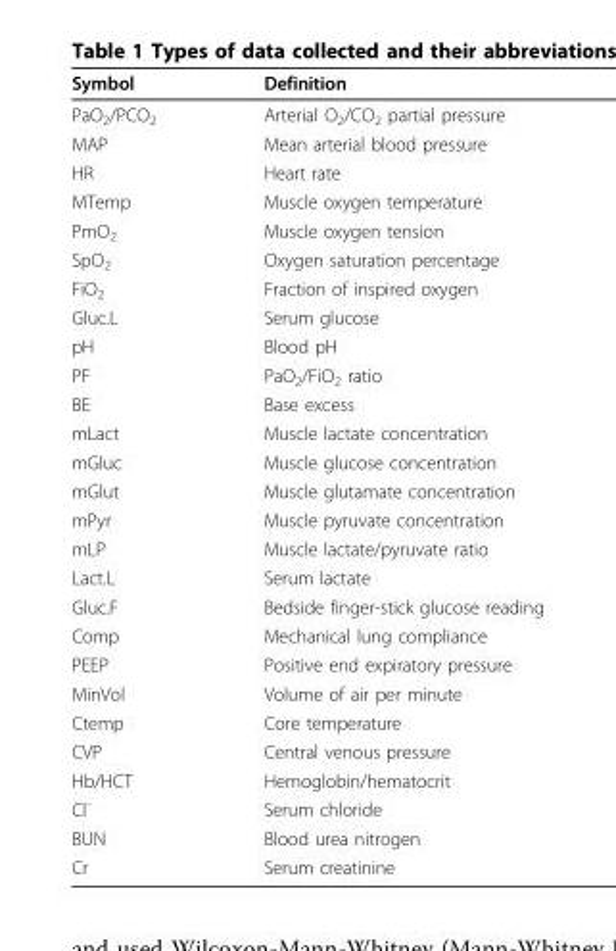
<table><thead><tr><td>Symbol</td><td>Definition</td></tr></thead><tbody><tr><td>PaO<sub>2</sub>/PCO<sub>2</sub></td><td>Arterial O<sub>2</sub>/CO<sub>2</sub> partial pressure</td></tr><tr><td>MAP</td><td>Mean arterial blood pressure</td></tr><tr><td>HR</td><td>Heart rate</td></tr><tr><td>MTemp</td><td>Muscle oxygen temperature</td></tr><tr><td>PmO<sub>2</sub></td><td>Muscle oxygen tension</td></tr><tr><td>SpO<sub>2</sub></td><td>Oxygen saturation percentage</td></tr><tr><td>FiO<sub>2</sub></td><td>Fraction of inspired oxygen</td></tr><tr><td>Gluc.L</td><td>Serum glucose</td></tr><tr><td>pH</td><td>Blood pH</td></tr><tr><td>PF</td><td>PaO<sub>2</sub>/FiO<sub>2</sub> ratio</td></tr><tr><td>BE</td><td>Base excess</td></tr><tr><td>mLact</td><td>Muscle lactate concentration</td></tr><tr><td>mGluc</td><td>Muscle glucose concentration</td></tr><tr><td>mGlut</td><td>Muscle glutamate concentration</td></tr><tr><td>mPyr</td><td>Muscle pyruvate concentration</td></tr><tr><td>mLP</td><td>Muscle lactate/pyruvate ratio</td></tr><tr><td>Lact.L</td><td>Serum lactate</td></tr><tr><td>Gluc.F</td><td>Bedside finger-stick glucose reading</td></tr><tr><td>Comp</td><td>Mechanical lung compliance</td></tr><tr><td>PEEP</td><td>Positive end expiratory pressure</td></tr><tr><td>MinVol</td><td>Volume of air per minute</td></tr><tr><td>Ctemp</td><td>Core temperature</td></tr><tr><td>CVP</td><td>Central venous pressure</td></tr><tr><td>Hb/HCT</td><td>Hemoglobin/hematocrit</td></tr><tr><td>Cl<sup>-</sup></td><td>Serum chloride</td></tr><tr><td>BUN</td><td>Blood urea nitrogen</td></tr><tr><td>Cr</td><td>Serum creatinine</td></tr></tbody></table>